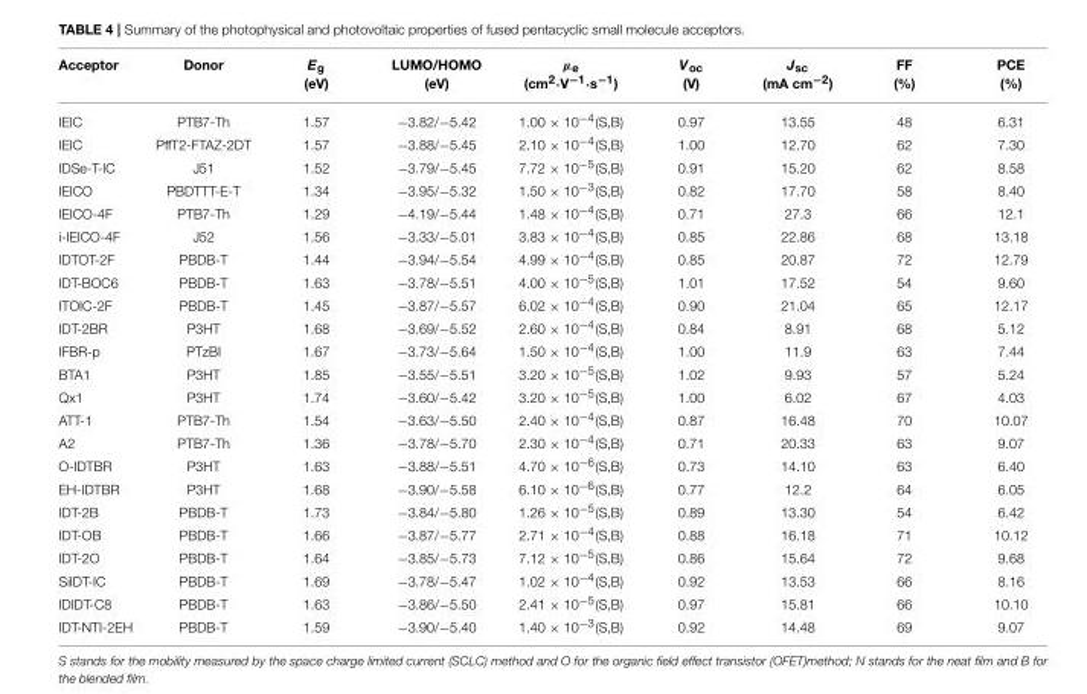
<table><thead><tr><td>Acceptor</td><td>Donor</td><td>E<sub>g</sub> (eV)</td><td>LUMO/HOMO (eV)</td><td>µ<sub>e</sub> (cm<sup>2</sup>·V<sup>−1</sup>·s<sup>−1</sup>)</td><td>V<sub>oc</sub> (V)</td><td>J<sub>sc</sub> (mA cm<sup>−2</sup>)</td><td>FF (%)</td><td>PCE (%)</td></tr></thead><tbody><tr><td>IEIC</td><td>PTB7-Th</td><td>1.57</td><td>−3.82/−5.42</td><td>1.00 × 10<sup>−4</sup>(S,B)</td><td>0.97</td><td>13.55</td><td>48</td><td>6.31</td></tr><tr><td>IEIC</td><td>PffT2-FTAZ-2DT</td><td>1.57</td><td>−3.88/−5.45</td><td>2.10 × 10<sup>−4</sup>(S,B)</td><td>1.00</td><td>12.70</td><td>62</td><td>7.30</td></tr><tr><td>IDSe-T-IC</td><td>J51</td><td>1.52</td><td>−3.79/−5.45</td><td>7.72 × 10<sup>−5</sup>(S,B)</td><td>0.91</td><td>15.20</td><td>62</td><td>8.58</td></tr><tr><td>IEICO</td><td>PBDTTT-E-T</td><td>1.34</td><td>−3.95/−5.32</td><td>1.50 × 10<sup>−3</sup>(S,B)</td><td>0.82</td><td>17.70</td><td>58</td><td>8.40</td></tr><tr><td>IEICO-4F</td><td>PTB7-Th</td><td>1.29</td><td>−4.19/−5.44</td><td>1.48 × 10<sup>−4</sup>(S,B)</td><td>0.71</td><td>27.3</td><td>66</td><td>12.1</td></tr><tr><td>i-IEICO-4F</td><td>J52</td><td>1.56</td><td>−3.33/−5.01</td><td>3.83 × 10<sup>−4</sup>(S,B)</td><td>0.85</td><td>22.86</td><td>68</td><td>13.18</td></tr><tr><td>IDTOT-2F</td><td>PBDB-T</td><td>1.44</td><td>−3.94/−5.54</td><td>4.99 × 10<sup>−4</sup>(S,B)</td><td>0.85</td><td>20.87</td><td>72</td><td>12.79</td></tr><tr><td>IDT-BOC6</td><td>PBDB-T</td><td>1.63</td><td>−3.78/−5.51</td><td>4.00 × 10<sup>−5</sup>(S,B)</td><td>1.01</td><td>17.52</td><td>54</td><td>9.60</td></tr><tr><td>ITOIC-2F</td><td>PBDB-T</td><td>1.45</td><td>−3.87/−5.57</td><td>6.02 × 10<sup>−4</sup>(S,B)</td><td>0.90</td><td>21.04</td><td>65</td><td>12.17</td></tr><tr><td>IDT-2BR</td><td>P3HT</td><td>1.68</td><td>−3.69/−5.52</td><td>2.60 × 10<sup>−4</sup>(S,B)</td><td>0.84</td><td>8.91</td><td>68</td><td>5.12</td></tr><tr><td>IFBR-p</td><td>PTzBI</td><td>1.67</td><td>−3.73/−5.64</td><td>1.50 × 10<sup>−4</sup>(S,B)</td><td>1.00</td><td>11.9</td><td>63</td><td>7.44</td></tr><tr><td>BTA1</td><td>P3HT</td><td>1.85</td><td>−3.55/−5.51</td><td>3.20 × 10<sup>−5</sup>(S,B)</td><td>1.02</td><td>9.93</td><td>57</td><td>5.24</td></tr><tr><td>Qx1</td><td>P3HT</td><td>1.74</td><td>−3.60/−5.42</td><td>3.20 × 10<sup>−5</sup>(S,B)</td><td>1.00</td><td>6.02</td><td>67</td><td>4.03</td></tr><tr><td>ATT-1</td><td>PTB7-Th</td><td>1.54</td><td>−3.63/−5.50</td><td>2.40 × 10<sup>−4</sup>(S,B)</td><td>0.87</td><td>16.48</td><td>70</td><td>10.07</td></tr><tr><td>A2</td><td>PTB7-Th</td><td>1.36</td><td>−3.78/−5.70</td><td>2.30 × 10<sup>−4</sup>(S,B)</td><td>0.71</td><td>20.33</td><td>63</td><td>9.07</td></tr><tr><td>O-IDTBR</td><td>P3HT</td><td>1.63</td><td>−3.88/−5.51</td><td>4.70 × 10<sup>−6</sup>(S,B)</td><td>0.73</td><td>14.10</td><td>63</td><td>6.40</td></tr><tr><td>EH-IDTBR</td><td>P3HT</td><td>1.68</td><td>−3.90/−5.58</td><td>6.10 × 10<sup>−6</sup>(S,B)</td><td>0.77</td><td>12.2</td><td>64</td><td>6.05</td></tr><tr><td>IDT-2B</td><td>PBDB-T</td><td>1.73</td><td>−3.84/−5.80</td><td>1.26 × 10<sup>−5</sup>(S,B)</td><td>0.89</td><td>13.30</td><td>54</td><td>6.42</td></tr><tr><td>IDT-OB</td><td>PBDB-T</td><td>1.66</td><td>−3.87/−5.77</td><td>2.71 × 10<sup>−4</sup>(S,B)</td><td>0.88</td><td>16.18</td><td>71</td><td>10.12</td></tr><tr><td>IDT-2O</td><td>PBDB-T</td><td>1.64</td><td>−3.85/−5.73</td><td>7.12 × 10<sup>−5</sup>(S,B)</td><td>0.86</td><td>15.64</td><td>72</td><td>9.68</td></tr><tr><td>SiIDT-IC</td><td>PBDB-T</td><td>1.69</td><td>−3.78/−5.47</td><td>1.02 × 10<sup>−4</sup>(S,B)</td><td>0.92</td><td>13.53</td><td>66</td><td>8.16</td></tr><tr><td>IDIDT-C8</td><td>PBDB-T</td><td>1.63</td><td>−3.86/−5.50</td><td>2.41 × 10<sup>−5</sup>(S,B)</td><td>0.97</td><td>15.81</td><td>66</td><td>10.10</td></tr><tr><td>IDT-NTI-2EH</td><td>PBDB-T</td><td>1.59</td><td>−3.90/−5.40</td><td>1.40 × 10<sup>−3</sup>(S,B)</td><td>0.92</td><td>14.48</td><td>69</td><td>9.07</td></tr></tbody></table>